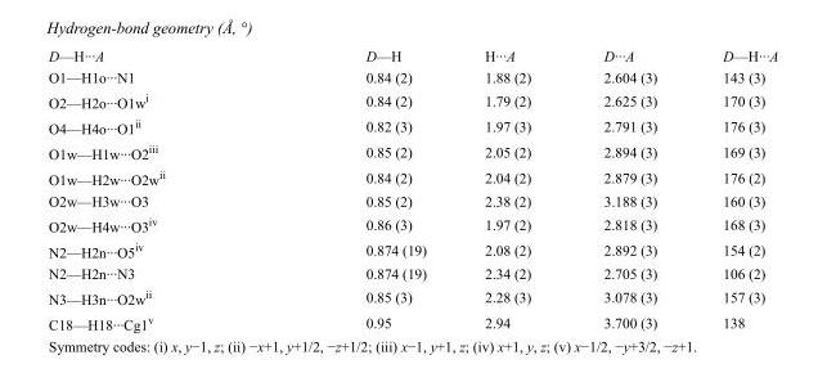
<table><tbody><tr><td>D—H···A</td><td>D—H</td><td>H···A</td><td>D···A</td><td>D—H···A</td></tr><tr><td>O1—H1o···N1</td><td>0.84 (2)</td><td>1.88 (2)</td><td>2.604 (3)</td><td>143 (3)</td></tr><tr><td>O2—H2o···O1w<sup>i</sup></td><td>0.84 (2)</td><td>1.79 (2)</td><td>2.625 (3)</td><td>170 (3)</td></tr><tr><td>O4—H4o···O1<sup>ii</sup></td><td>0.82 (3)</td><td>1.97 (3)</td><td>2.791 (3)</td><td>176 (3)</td></tr><tr><td>O1w—H1w···O2<sup>iii</sup></td><td>0.85 (2)</td><td>2.05 (2)</td><td>2.894 (3)</td><td>169 (3)</td></tr><tr><td>O1w—H2w···O2w<sup>ii</sup></td><td>0.84 (2)</td><td>2.04 (2)</td><td>2.879 (3)</td><td>176 (2)</td></tr><tr><td>O2w—H3w···O3</td><td>0.85 (2)</td><td>2.38 (2)</td><td>3.188 (3)</td><td>160 (3)</td></tr><tr><td>O2w—H4w···O3<sup>iv</sup></td><td>0.86 (3)</td><td>1.97 (2)</td><td>2.818 (3)</td><td>168 (3)</td></tr><tr><td>N2—H2n···O5<sup>iv</sup></td><td>0.874 (19)</td><td>2.08 (2)</td><td>2.892 (3)</td><td>154 (2)</td></tr><tr><td>N2—H2n···N3</td><td>0.874 (19)</td><td>2.34 (2)</td><td>2.705 (3)</td><td>106 (2)</td></tr><tr><td>N3—H3n···O2w<sup>ii</sup></td><td>0.85 (3)</td><td>2.28 (3)</td><td>3.078 (3)</td><td>157 (3)</td></tr><tr><td>C18—H18···Cg1<sup>v</sup></td><td>0.95</td><td>2.94</td><td>3.700 (3)</td><td>138</td></tr></tbody></table>